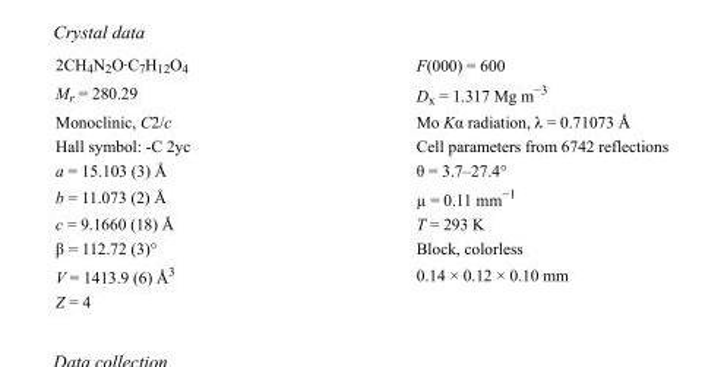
<table><tbody><tr><td>2CH<sub>4</sub>N<sub>2</sub>O·C<sub>7</sub>H<sub>12</sub>O<sub>4</sub></td><td>F(000) = 600</td></tr><tr><td>M<sub>r</sub> = 280.29</td><td>D<sub>x</sub> = 1.317 Mg m<sup>−3</sup></td></tr><tr><td>Monoclinic, C2/c</td><td>Mo Kα radiation, λ = 0.71073 Å</td></tr><tr><td>Hall symbol: -C 2yc</td><td>Cell parameters from 6742 reflections</td></tr><tr><td>a = 15.103 (3) Å</td><td>θ = 3.7–27.4°</td></tr><tr><td>b = 11.073 (2) Å</td><td>µ = 0.11 mm<sup>−1</sup></td></tr><tr><td>c = 9.1660 (18) Å</td><td>T = 293 K</td></tr><tr><td>β = 112.72 (3)°</td><td>Block, colorless</td></tr><tr><td>V = 1413.9 (6) Å<sup>3</sup></td><td>0.14 × 0.12 × 0.10 mm</td></tr><tr><td>Z = 4</td><td></td></tr></tbody></table>